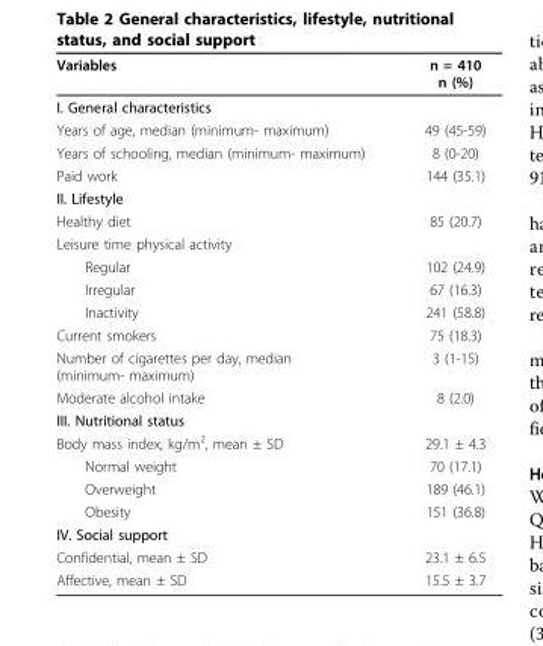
<table><thead><tr><td>Variables</td><td>n = 410 n (%)</td></tr></thead><tbody><tr><td colspan="2">I. General characteristics</td></tr><tr><td>Years of age, median (minimum- maximum)</td><td>49 (45-59)</td></tr><tr><td>Years of schooling, median (minimum- maximum)</td><td>8 (0-20)</td></tr><tr><td>Paid work</td><td>144 (35.1)</td></tr><tr><td colspan="2">II. Lifestyle</td></tr><tr><td>Healthy diet</td><td>85 (20.7)</td></tr><tr><td colspan="2">Leisure time physical activity</td></tr><tr><td>Regular</td><td>102 (24.9)</td></tr><tr><td>Irregular</td><td>67 (16.3)</td></tr><tr><td>Inactivity</td><td>241 (58.8)</td></tr><tr><td>Current smokers</td><td>75 (18.3)</td></tr><tr><td>Number of cigarettes per day, median (minimum- maximum)</td><td>3 (1-15)</td></tr><tr><td>Moderate alcohol intake</td><td>8 (2.0)</td></tr><tr><td colspan="2">III. Nutritional status</td></tr><tr><td>Body mass index, kg/m<sup>2</sup>, mean ± SD</td><td>29.1 ± 4.3</td></tr><tr><td>Normal weight</td><td>70 (17.1)</td></tr><tr><td>Overweight</td><td>189 (46.1)</td></tr><tr><td>Obesity</td><td>151 (36.8)</td></tr><tr><td colspan="2">IV. Social support</td></tr><tr><td>Confidential, mean ± SD</td><td>23.1 ± 6.5</td></tr><tr><td>Affective, mean ± SD</td><td>15.5 ± 3.7</td></tr></tbody></table>